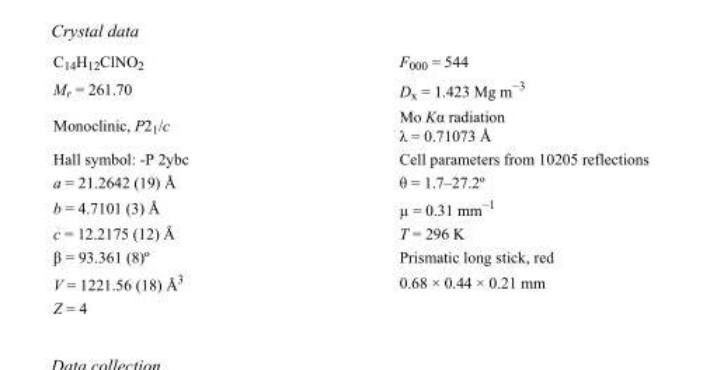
<table><tbody><tr><td>C<sub>14</sub>H<sub>12</sub>ClNO<sub>2</sub></td><td>F<sub>000</sub> = 544</td></tr><tr><td>M<sub>r</sub> = 261.70</td><td>D<sub>x</sub> = 1.423 Mg m<sup>−3</sup></td></tr><tr><td>Monoclinic, P2<sub>1</sub>/c</td><td>Mo Kα radiation λ = 0.71073 Å</td></tr><tr><td>Hall symbol: -P 2ybc</td><td>Cell parameters from 10205 reflections</td></tr><tr><td>a = 21.2642 (19) Å</td><td>θ = 1.7–27.2º</td></tr><tr><td>b = 4.7101 (3) Å</td><td>µ = 0.31 mm<sup>−1</sup></td></tr><tr><td>c = 12.2175 (12) Å</td><td>T = 296 K</td></tr><tr><td>β = 93.361 (8)º</td><td>Prismatic long stick, red</td></tr><tr><td>V = 1221.56 (18) Å<sup>3</sup></td><td>0.68 × 0.44 × 0.21 mm</td></tr><tr><td>Z = 4</td><td></td></tr></tbody></table>